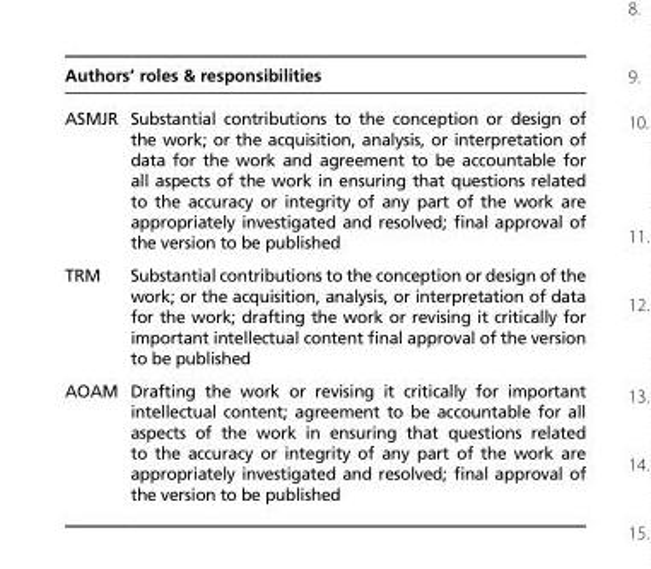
<table><thead><tr><td colspan="2">Authors’ roles &amp; responsibilities</td></tr><tr><td>ASMJR</td><td>Substantial contributions to the conception or design of the work; or the acquisition, analysis, or interpretation of data for the work and agreement to be accountable for all aspects of the work in ensuring that questions related to the accuracy or integrity of any part of the work are appropriately investigated and resolved; final approval of the version to be published</td></tr></thead><tbody><tr><td>TRM</td><td>Substantial contributions to the conception or design of the work; or the acquisition, analysis, or interpretation of data for the work; drafting the work or revising it critically for important intellectual content final approval of the version to be published</td></tr><tr><td>AOAM</td><td>Drafting the work or revising it critically for important intellectual content; agreement to be accountable for all aspects of the work in ensuring that questions related to the accuracy or integrity of any part of the work are appropriately investigated and resolved; final approval of the version to be published</td></tr></tbody></table>